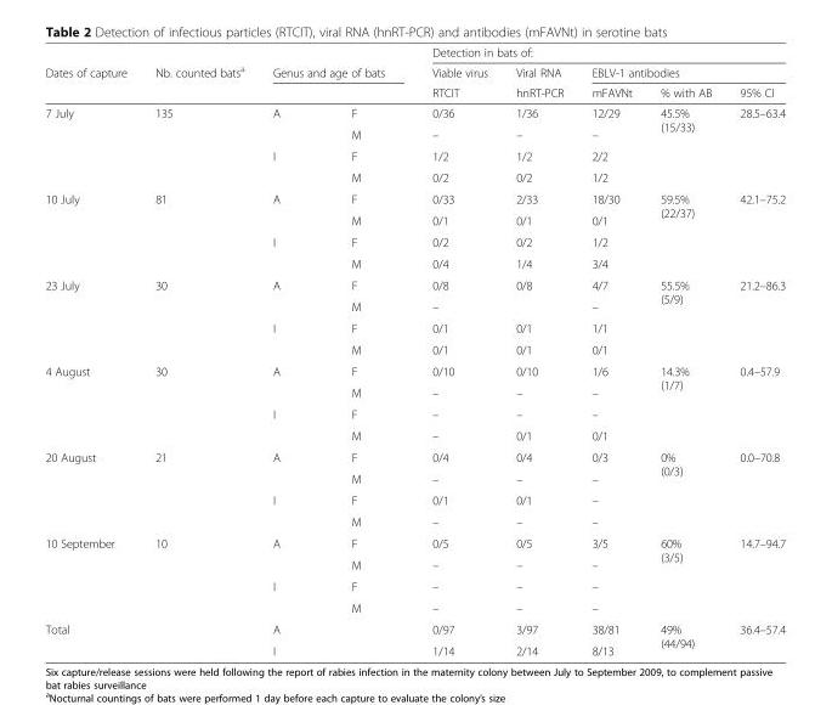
<table><thead><tr><td rowspan="3">Dates of capture</td><td rowspan="3">Nb. counted bats<sup>a</sup></td><td></td><td></td><td colspan="5">Detection in bats of:</td></tr><tr><td colspan="2">Genus and age of bats</td><td rowspan="2">Viable virus RTCIT</td><td rowspan="2">Viral RNA hnRT-PCR</td><td colspan="3">EBLV-1 antibodies</td></tr><tr><td></td><td></td><td>mFAVNt</td><td>% with AB</td><td>95% CI</td></tr></thead><tbody><tr><td rowspan="4">7 July</td><td>135</td><td>A</td><td>F</td><td>0/36</td><td>1/36</td><td>12/29</td><td rowspan="4">45.5% (15/33)</td><td rowspan="4">28.5–63.4</td></tr><tr><td></td><td></td><td>M</td><td>–</td><td>–</td><td>–</td></tr><tr><td></td><td>I</td><td>F</td><td>1/2</td><td>1/2</td><td>2/2</td></tr><tr><td></td><td></td><td>M</td><td>0/2</td><td>0/2</td><td>1/2</td></tr><tr><td rowspan="4">10 July</td><td>81</td><td>A</td><td>F</td><td>0/33</td><td>2/33</td><td>18/30</td><td rowspan="4">59.5% (22/37)</td><td rowspan="4">42.1–75.2</td></tr><tr><td></td><td></td><td>M</td><td>0/1</td><td>0/1</td><td>0/1</td></tr><tr><td></td><td>I</td><td>F</td><td>0/2</td><td>0/2</td><td>1/2</td></tr><tr><td></td><td></td><td>M</td><td>0/4</td><td>1/4</td><td>3/4</td></tr><tr><td rowspan="4">23 July</td><td>30</td><td>A</td><td>F</td><td>0/8</td><td>0/8</td><td>4/7</td><td rowspan="4">55.5% (5/9)</td><td rowspan="4">21.2–86.3</td></tr><tr><td></td><td></td><td>M</td><td>–</td><td></td><td>–</td></tr><tr><td></td><td>I</td><td>F</td><td>0/1</td><td>0/1</td><td>1/1</td></tr><tr><td></td><td></td><td>M</td><td>0/1</td><td>0/1</td><td>0/1</td></tr><tr><td rowspan="4">4 August</td><td>30</td><td>A</td><td>F</td><td>0/10</td><td>0/10</td><td>1/6</td><td rowspan="4">14.3% (1/7)</td><td rowspan="4">0.4–57.9</td></tr><tr><td></td><td></td><td>M</td><td>–</td><td>–</td><td>–</td></tr><tr><td></td><td>I</td><td>F</td><td>–</td><td>–</td><td>–</td></tr><tr><td></td><td></td><td>M</td><td>–</td><td>0/1</td><td>0/1</td></tr><tr><td rowspan="4">20 August</td><td>21</td><td>A</td><td>F</td><td>0/4</td><td>0/4</td><td>0/3</td><td rowspan="4">0% (0/3)</td><td rowspan="4">0.0–70.8</td></tr><tr><td></td><td></td><td>M</td><td>–</td><td>–</td><td>–</td></tr><tr><td></td><td>I</td><td>F</td><td>0/1</td><td>0/1</td><td>–</td></tr><tr><td></td><td></td><td>M</td><td>–</td><td>–</td><td>–</td></tr><tr><td rowspan="4">10 September</td><td>10</td><td>A</td><td>F</td><td>0/5</td><td>0/5</td><td>3/5</td><td rowspan="4">60% (3/5)</td><td rowspan="4">14.7–94.7</td></tr><tr><td></td><td></td><td>M</td><td>–</td><td>–</td><td>–</td></tr><tr><td></td><td>I</td><td>F</td><td>–</td><td>–</td><td>–</td></tr><tr><td></td><td></td><td>M</td><td>–</td><td>–</td><td>–</td></tr><tr><td rowspan="2">Total</td><td></td><td>A</td><td></td><td>0/97</td><td>3/97</td><td>38/81</td><td rowspan="2">49% (44/94)</td><td>36.4–57.4</td></tr><tr><td></td><td>I</td><td></td><td>1/14</td><td>2/14</td><td>8/13</td><td></td></tr></tbody></table>